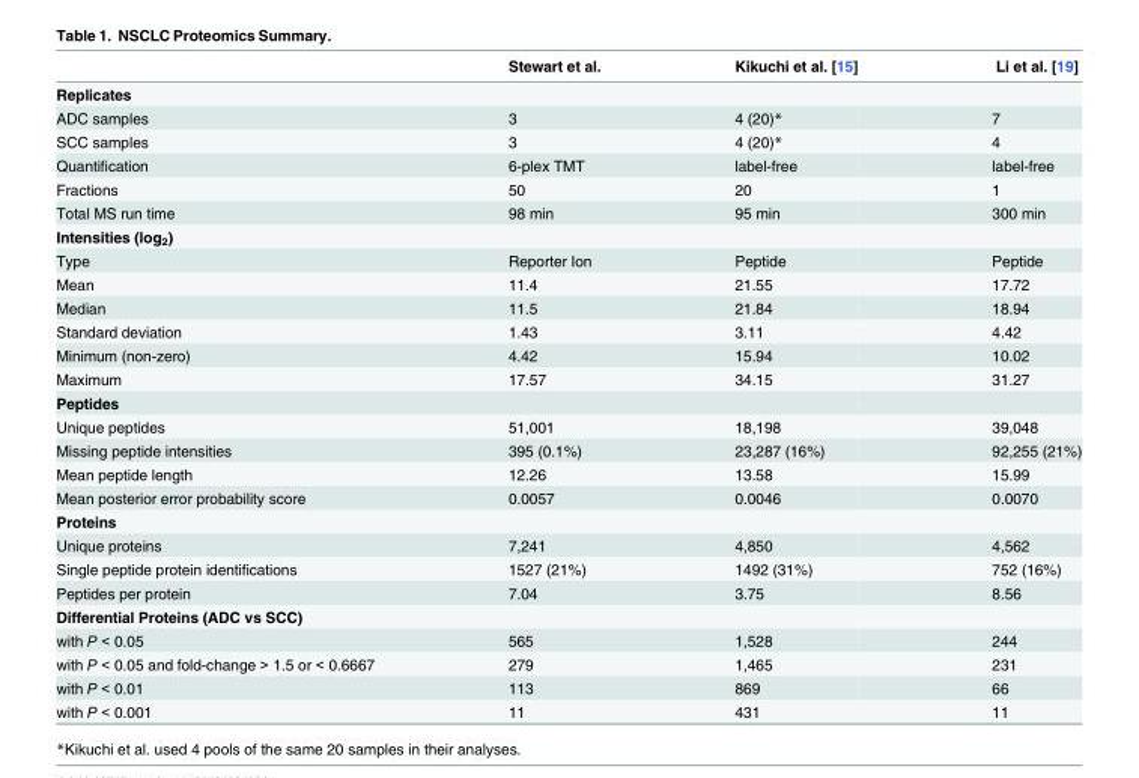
<table><thead><tr><td></td><td>Stewart et al.</td><td>Kikuchi et al. [15]</td><td>Li et al. [19]</td></tr></thead><tbody><tr><td colspan="4">Replicates</td></tr><tr><td>ADC samples</td><td>3</td><td>4 (20)*</td><td>7</td></tr><tr><td>SCC samples</td><td>3</td><td>4 (20)*</td><td>4</td></tr><tr><td>Quantification</td><td>6-plex TMT</td><td>label-free</td><td>label-free</td></tr><tr><td>Fractions</td><td>50</td><td>20</td><td>1</td></tr><tr><td>Total MS run time</td><td>98 min</td><td>95 min</td><td>300 min</td></tr><tr><td colspan="4">Intensities (log<sub>2</sub>)</td></tr><tr><td>Type</td><td>Reporter Ion</td><td>Peptide</td><td>Peptide</td></tr><tr><td>Mean</td><td>11.4</td><td>21.55</td><td>17.72</td></tr><tr><td>Median</td><td>11.5</td><td>21.84</td><td>18.94</td></tr><tr><td>Standard deviation</td><td>1.43</td><td>3.11</td><td>4.42</td></tr><tr><td>Minimum (non-zero)</td><td>4.42</td><td>15.94</td><td>10.02</td></tr><tr><td>Maximum</td><td>17.57</td><td>34.15</td><td>31.27</td></tr><tr><td colspan="4">Peptides</td></tr><tr><td>Unique peptides</td><td>51,001</td><td>18,198</td><td>39,048</td></tr><tr><td>Missing peptide intensities</td><td>395 (0.1%)</td><td>23,287 (16%)</td><td>92,255 (21%)</td></tr><tr><td>Mean peptide length</td><td>12.26</td><td>13.58</td><td>15.99</td></tr><tr><td>Mean posterior error probability score</td><td>0.0057</td><td>0.0046</td><td>0.0070</td></tr><tr><td colspan="4">Proteins</td></tr><tr><td>Unique proteins</td><td>7,241</td><td>4,850</td><td>4,562</td></tr><tr><td>Single peptide protein identifications</td><td>1527 (21%)</td><td>1492 (31%)</td><td>752 (16%)</td></tr><tr><td>Peptides per protein</td><td>7.04</td><td>3.75</td><td>8.56</td></tr><tr><td colspan="4">Differential Proteins (ADC vs SCC)</td></tr><tr><td>with P &lt; 0.05</td><td>565</td><td>1,528</td><td>244</td></tr><tr><td>with P &lt; 0.05 and fold-change &gt; 1.5 or &lt; 0.6667</td><td>279</td><td>1,465</td><td>231</td></tr><tr><td>with P &lt; 0.01</td><td>113</td><td>869</td><td>66</td></tr><tr><td>with P &lt; 0.001</td><td>11</td><td>431</td><td>11</td></tr></tbody></table>